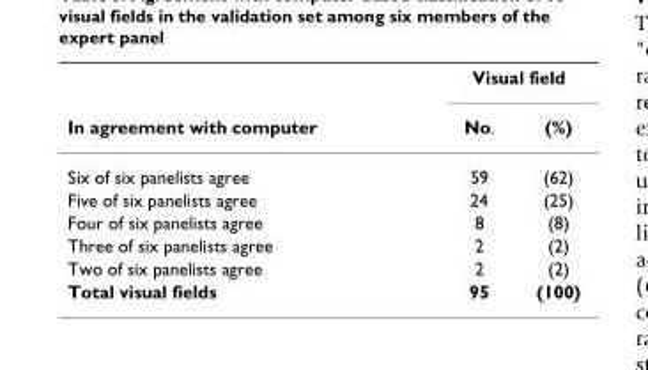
<table><thead><tr><td rowspan="2">In agreement with computer</td><td colspan="2">Visual field</td></tr><tr><td>No.</td><td>(%)</td></tr></thead><tbody><tr><td>Six of six panelists agree</td><td>59</td><td>(62)</td></tr><tr><td>Five of six panelists agree</td><td>24</td><td>(25)</td></tr><tr><td>Four of six panelists agree</td><td>8</td><td>(8)</td></tr><tr><td>Three of six panelists agree</td><td>2</td><td>(2)</td></tr><tr><td>Two of six panelists agree</td><td>2</td><td>(2)</td></tr><tr><td>Total visual fields</td><td>95</td><td>(100)</td></tr></tbody></table>